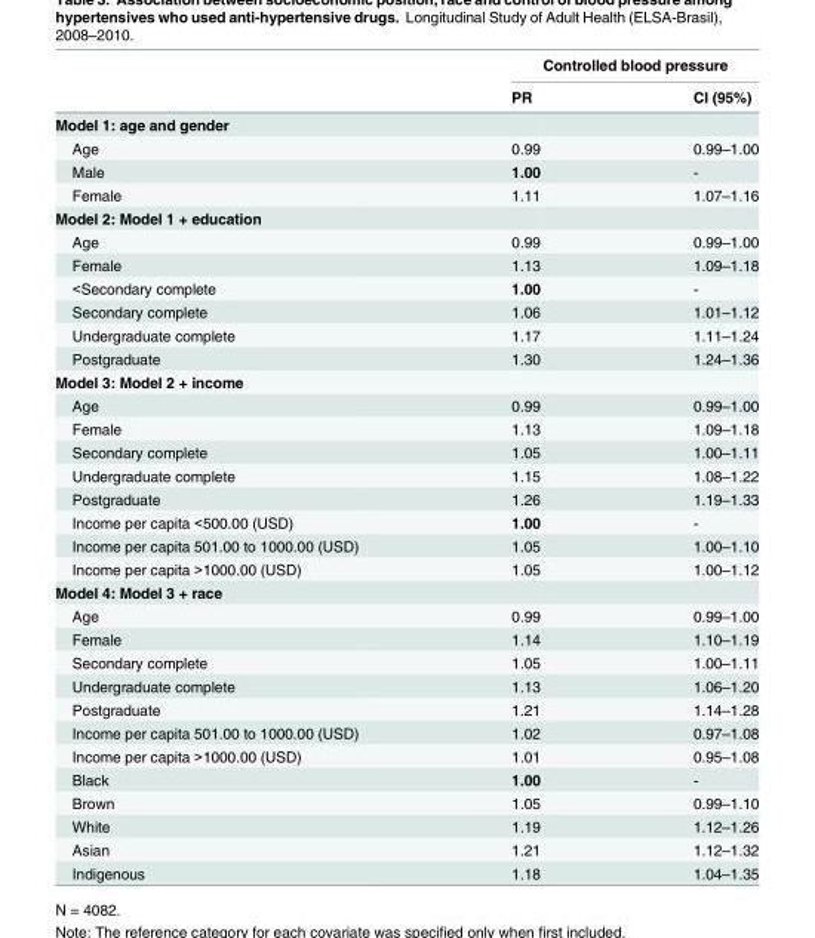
<table><thead><tr><td rowspan="2"></td><td colspan="2">Controlled blood pressure</td></tr><tr><td>PR</td><td>CI (95%)</td></tr></thead><tbody><tr><td colspan="3">Model 1: age and gender</td></tr><tr><td>Age</td><td>0.99</td><td>0.99–1.00</td></tr><tr><td>Male</td><td>1.00</td><td>-</td></tr><tr><td>Female</td><td>1.11</td><td>1.07–1.16</td></tr><tr><td colspan="3">Model 2: Model 1 + education</td></tr><tr><td>Age</td><td>0.99</td><td>0.99–1.00</td></tr><tr><td>Female</td><td>1.13</td><td>1.09–1.18</td></tr><tr><td>&lt;Secondary complete</td><td>1.00</td><td>-</td></tr><tr><td>Secondary complete</td><td>1.06</td><td>1.01–1.12</td></tr><tr><td>Undergraduate complete</td><td>1.17</td><td>1.11–1.24</td></tr><tr><td>Postgraduate</td><td>1.30</td><td>1.24–1.36</td></tr><tr><td colspan="3">Model 3: Model 2 + income</td></tr><tr><td>Age</td><td>0.99</td><td>0.99–1.00</td></tr><tr><td>Female</td><td>1.13</td><td>1.09–1.18</td></tr><tr><td>Secondary complete</td><td>1.05</td><td>1.00–1.11</td></tr><tr><td>Undergraduate complete</td><td>1.15</td><td>1.08–1.22</td></tr><tr><td>Postgraduate</td><td>1.26</td><td>1.19–1.33</td></tr><tr><td>Income per capita &lt;500.00 (USD)</td><td>1.00</td><td>-</td></tr><tr><td>Income per capita 501.00 to 1000.00 (USD)</td><td>1.05</td><td>1.00–1.10</td></tr><tr><td>Income per capita &gt;1000.00 (USD)</td><td>1.05</td><td>1.00–1.12</td></tr><tr><td colspan="3">Model 4: Model 3 + race</td></tr><tr><td>Age</td><td>0.99</td><td>0.99–1.00</td></tr><tr><td>Female</td><td>1.14</td><td>1.10–1.19</td></tr><tr><td>Secondary complete</td><td>1.05</td><td>1.00–1.11</td></tr><tr><td>Undergraduate complete</td><td>1.13</td><td>1.06–1.20</td></tr><tr><td>Postgraduate</td><td>1.21</td><td>1.14–1.28</td></tr><tr><td>Income per capita 501.00 to 1000.00 (USD)</td><td>1.02</td><td>0.97–1.08</td></tr><tr><td>Income per capita &gt;1000.00 (USD)</td><td>1.01</td><td>0.95–1.08</td></tr><tr><td>Black</td><td>1.00</td><td>-</td></tr><tr><td>Brown</td><td>1.05</td><td>0.99–1.10</td></tr><tr><td>White</td><td>1.19</td><td>1.12–1.26</td></tr><tr><td>Asian</td><td>1.21</td><td>1.12–1.32</td></tr><tr><td>Indigenous</td><td>1.18</td><td>1.04–1.35</td></tr></tbody></table>